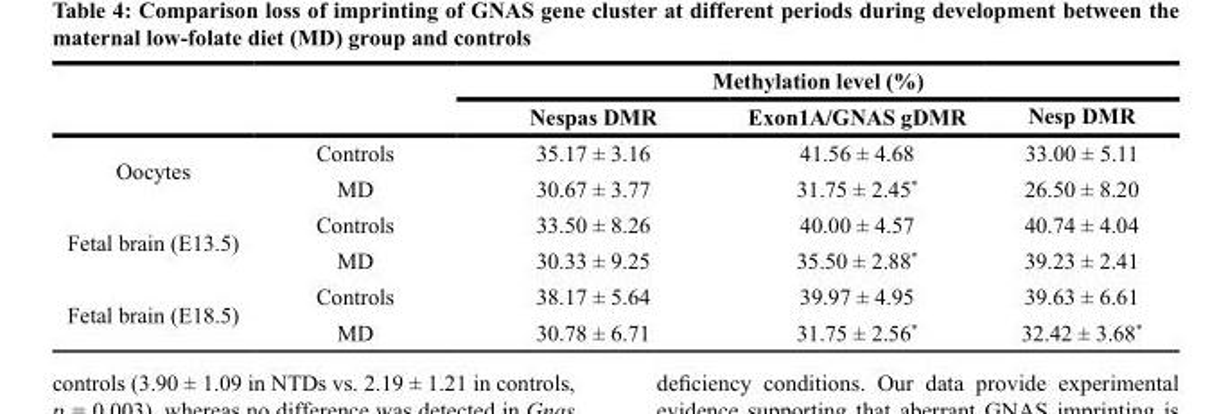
<table><thead><tr><td rowspan="2"></td><td rowspan="2"></td><td colspan="3">Methylation level (%)</td></tr><tr><td>Nespas DMR</td><td>Exon1A/GNAS gDMR</td><td>Nesp DMR</td></tr></thead><tbody><tr><td rowspan="2">Oocytes</td><td>Controls</td><td>35.17 ± 3.16</td><td>41.56 ± 4.68</td><td>33.00 ± 5.11</td></tr><tr><td>MD</td><td>30.67 ± 3.77</td><td>31.75 ± 2.45*</td><td>26.50 ± 8.20</td></tr><tr><td rowspan="2">Fetal brain (E13.5)</td><td>Controls</td><td>33.50 ± 8.26</td><td>40.00 ± 4.57</td><td>40.74 ± 4.04</td></tr><tr><td>MD</td><td>30.33 ± 9.25</td><td>35.50 ± 2.88*</td><td>39.23 ± 2.41</td></tr><tr><td rowspan="2">Fetal brain (E18.5)</td><td>Controls</td><td>38.17 ± 5.64</td><td>39.97 ± 4.95</td><td>39.63 ± 6.61</td></tr><tr><td>MD</td><td>30.78 ± 6.71</td><td>31.75 ± 2.56*</td><td>32.42 ± 3.68*</td></tr></tbody></table>